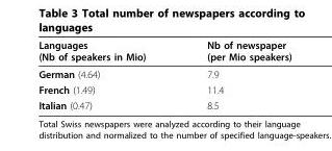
<table><thead><tr><td>Languages (Nb of speakers in Mio)</td><td>Nb of newspaper (per Mio speakers)</td></tr></thead><tbody><tr><td>German (4.64)</td><td>7.9</td></tr><tr><td>French (1.49)</td><td>11.4</td></tr><tr><td>Italian (0.47)</td><td>8.5</td></tr></tbody></table>